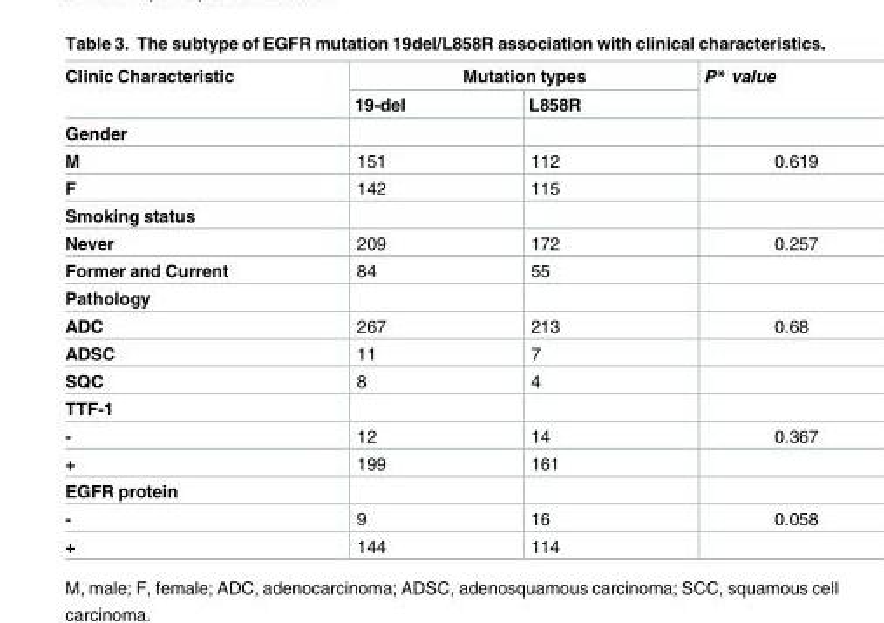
<table><thead><tr><td rowspan="2">Clinic Characteristic</td><td colspan="2">Mutation types</td><td rowspan="2">P* value</td></tr><tr><td>19-del</td><td>L858R</td></tr></thead><tbody><tr><td colspan="4">Gender</td></tr><tr><td>M</td><td>151</td><td>112</td><td>0.619</td></tr><tr><td>F</td><td>142</td><td>115</td><td></td></tr><tr><td colspan="4">Smoking status</td></tr><tr><td>Never</td><td>209</td><td>172</td><td>0.257</td></tr><tr><td>Former and Current</td><td>84</td><td>55</td><td></td></tr><tr><td colspan="4">Pathology</td></tr><tr><td>ADC</td><td>267</td><td>213</td><td>0.68</td></tr><tr><td>ADSC</td><td>11</td><td>7</td><td></td></tr><tr><td>SQC</td><td>8</td><td>4</td><td></td></tr><tr><td colspan="4">TTF-1</td></tr><tr><td>-</td><td>12</td><td>14</td><td>0.367</td></tr><tr><td>+</td><td>199</td><td>161</td><td></td></tr><tr><td colspan="4">EGFR protein</td></tr><tr><td>-</td><td>9</td><td>16</td><td>0.058</td></tr><tr><td>+</td><td>144</td><td>114</td><td></td></tr></tbody></table>